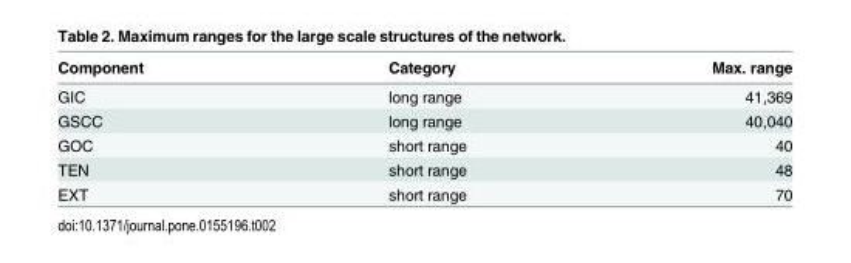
<table><thead><tr><td>Component</td><td>Category</td><td>Max. range</td></tr></thead><tbody><tr><td>GIC</td><td>long range</td><td>41,369</td></tr><tr><td>GSCC</td><td>long range</td><td>40,040</td></tr><tr><td>GOC</td><td>short range</td><td>40</td></tr><tr><td>TEN</td><td>short range</td><td>48</td></tr><tr><td>EXT</td><td>short range</td><td>70</td></tr></tbody></table>